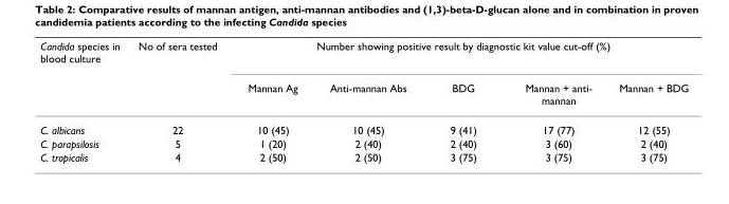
<table><thead><tr><td rowspan="2">Candida species in blood culture</td><td rowspan="2">No of sera tested</td><td colspan="5">Number showing positive result by diagnostic kit value cut-off (%)</td></tr><tr><td>Mannan Ag</td><td>Anti-mannan Abs</td><td>BDG</td><td>Mannan + anti- mannan</td><td>Mannan + BDG</td></tr></thead><tbody><tr><td>C. albicans</td><td>22</td><td>10 (45)</td><td>10 (45)</td><td>9 (41)</td><td>17 (77)</td><td>12 (55)</td></tr><tr><td>C. parapsilosis</td><td>5</td><td>1 (20)</td><td>2 (40)</td><td>2 (40)</td><td>3 (60)</td><td>2 (40)</td></tr><tr><td>C. tropicalis</td><td>4</td><td>2 (50)</td><td>2 (50)</td><td>3 (75)</td><td>3 (75)</td><td>3 (75)</td></tr></tbody></table>